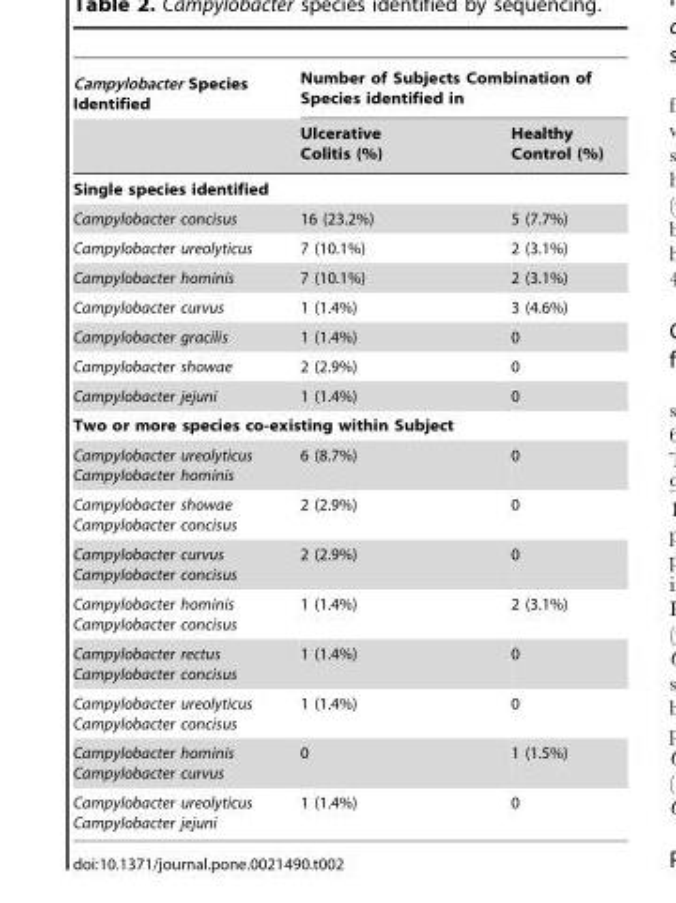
<table><thead><tr><td rowspan="2">Campylobacter Species Identified</td><td colspan="2">Number of Subjects Combination of Species identified in</td></tr><tr><td>Ulcerative Colitis (%)</td><td>Healthy Control (%)</td></tr></thead><tbody><tr><td colspan="3">Single species identified</td></tr><tr><td>Campylobacter concisus</td><td>16 (23.2%)</td><td>5 (7.7%)</td></tr><tr><td>Campylobacter ureolyticus</td><td>7 (10.1%)</td><td>2 (3.1%)</td></tr><tr><td>Campylobacter hominis</td><td>7 (10.1%)</td><td>2 (3.1%)</td></tr><tr><td>Campylobacter curvus</td><td>1 (1.4%)</td><td>3 (4.6%)</td></tr><tr><td>Campylobacter gracilis</td><td>1 (1.4%)</td><td>0</td></tr><tr><td>Campylobacter showae</td><td>2 (2.9%)</td><td>0</td></tr><tr><td>Campylobacter jejuni</td><td>1 (1.4%)</td><td>0</td></tr><tr><td colspan="3">Two or more species co-existing within Subject</td></tr><tr><td>Campylobacter ureolyticus Campylobacter hominis</td><td>6 (8.7%)</td><td>0</td></tr><tr><td>Campylobacter showae Campylobacter concisus</td><td>2 (2.9%)</td><td>0</td></tr><tr><td>Campylobacter curvus Campylobacter concisus</td><td>2 (2.9%)</td><td>0</td></tr><tr><td>Campylobacter hominis Campylobacter concisus</td><td>1 (1.4%)</td><td>2 (3.1%)</td></tr><tr><td>Campylobacter rectus Campylobacter concisus</td><td>1 (1.4%)</td><td>0</td></tr><tr><td>Campylobacter ureolyticus Campylobacter concisus</td><td>1 (1.4%)</td><td>0</td></tr><tr><td>Campylobacter hominis Campylobacter curvus</td><td>0</td><td>1 (1.5%)</td></tr><tr><td>Campylobacter ureolyticus Campylobacter jejuni</td><td>1 (1.4%)</td><td>0</td></tr></tbody></table>